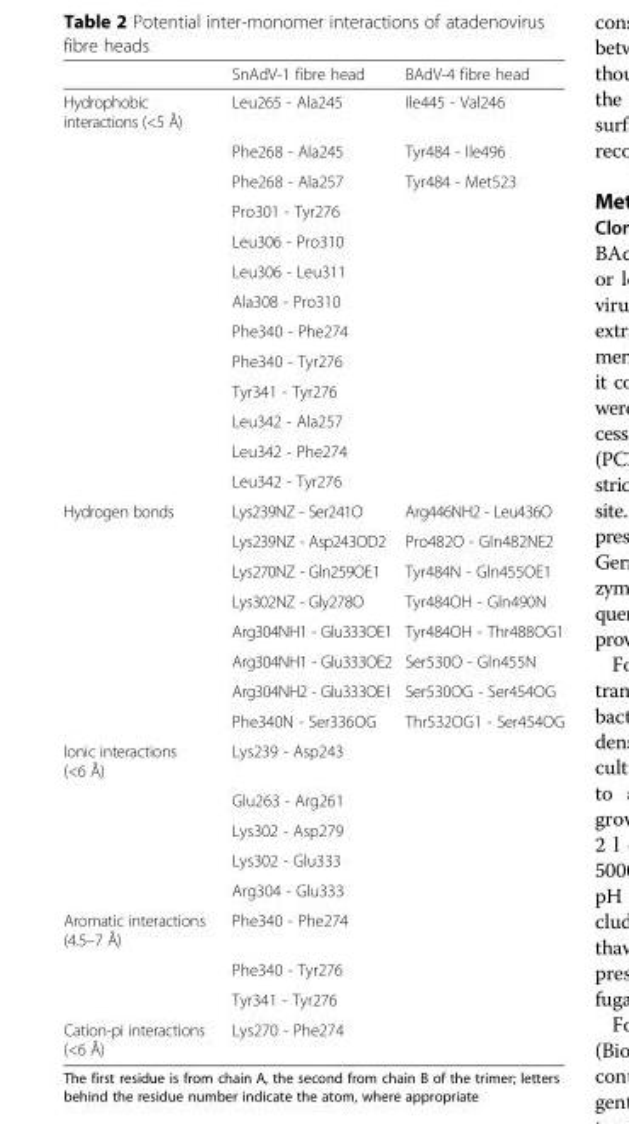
<table><thead><tr><td></td><td>SnAdV-1 fibre head</td><td>BAdV-4 fibre head</td></tr></thead><tbody><tr><td rowspan="13">Hydrophobic interactions (&lt;5 Å)</td><td>Leu265 - Ala245</td><td>Ile445 - Val246</td></tr><tr><td>Phe268 - Ala245</td><td>Tyr484 - Ile496</td></tr><tr><td>Phe268 - Ala257</td><td>Tyr484 - Met523</td></tr><tr><td>Pro301 - Tyr276</td><td></td></tr><tr><td>Leu306 - Pro310</td><td></td></tr><tr><td>Leu306 - Leu311</td><td></td></tr><tr><td>Ala308 - Pro310</td><td></td></tr><tr><td>Phe340 - Phe274</td><td></td></tr><tr><td>Phe340 - Tyr276</td><td></td></tr><tr><td>Tyr341 - Tyr276</td><td></td></tr><tr><td>Leu342 - Ala257</td><td></td></tr><tr><td>Leu342 - Phe274</td><td></td></tr><tr><td>Leu342 - Tyr276</td><td></td></tr><tr><td rowspan="8">Hydrogen bonds</td><td>Lys239NZ - Ser241O</td><td>Arg446NH2 - Leu436O</td></tr><tr><td>Lys239NZ - Asp243OD2</td><td>Pro482O - Gln482NE2</td></tr><tr><td>Lys270NZ - Gln259OE1</td><td>Tyr484N - Gln455OE1</td></tr><tr><td>Lys302NZ - Gly278O</td><td>Tyr484OH - Gln490N</td></tr><tr><td>Arg304NH1 - Glu333OE1</td><td>Tyr484OH - Thr488OG1</td></tr><tr><td>Arg304NH1 - Glu333OE2</td><td>Ser530O - Gln455N</td></tr><tr><td>Arg304NH2 - Glu333OE1</td><td>Ser530OG - Ser454OG</td></tr><tr><td>Phe340N - Ser336OG</td><td>Thr532OG1 - Ser454OG</td></tr><tr><td rowspan="5">Ionic interactions (&lt;6 Å)</td><td>Lys239 - Asp243</td><td></td></tr><tr><td>Glu263 - Arg261</td><td></td></tr><tr><td>Lys302 - Asp279</td><td></td></tr><tr><td>Lys302 - Glu333</td><td></td></tr><tr><td>Arg304 - Glu333</td><td></td></tr><tr><td rowspan="3">Aromatic interactions (4.5–7 Å)</td><td>Phe340 - Phe274</td><td></td></tr><tr><td>Phe340 - Tyr276</td><td></td></tr><tr><td>Tyr341 - Tyr276</td><td></td></tr><tr><td>Cation-pi interactions (&lt;6 Å)</td><td>Lys270 - Phe274</td><td></td></tr></tbody></table>